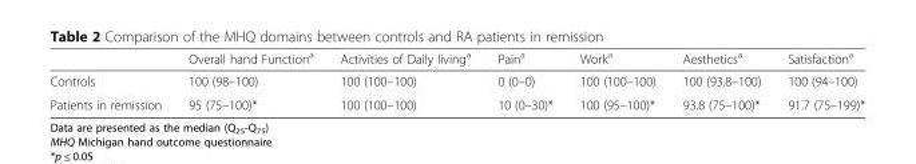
<table><thead><tr><td></td><td>Overall hand Function<sup>a</sup></td><td>Activities of Daily living<sup>a</sup></td><td>Pain<sup>a</sup></td><td>Work<sup>a</sup></td><td>Aesthetics<sup>a</sup></td><td>Satisfaction<sup>a</sup></td></tr></thead><tbody><tr><td>Controls</td><td>100 (98–100)</td><td>100 (100–100)</td><td>0 (0–0)</td><td>100 (100–100)</td><td>100 (93.8–100)</td><td>100 (94–100)</td></tr><tr><td>Patients in remission</td><td>95 (75–100)*</td><td>100 (100–100)</td><td>10 (0–30)*</td><td>100 (95–100)*</td><td>93.8 (75–100)*</td><td>91.7 (75–199)*</td></tr></tbody></table>